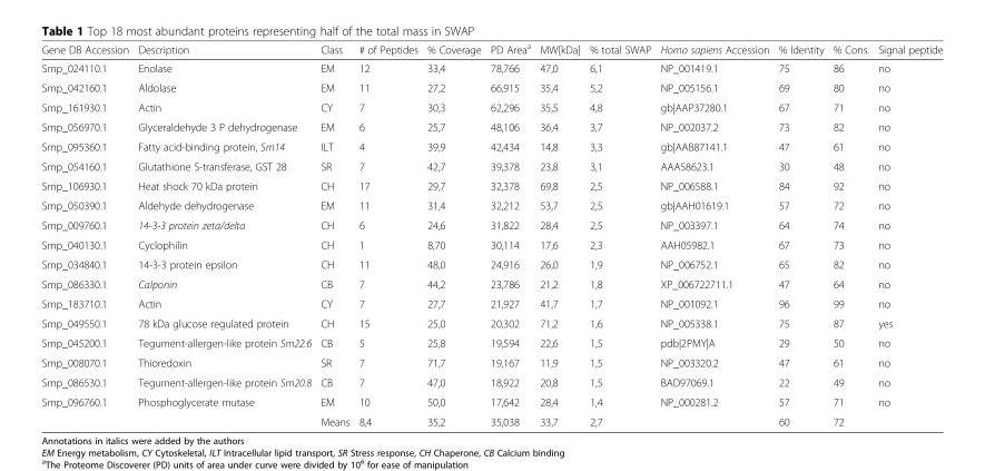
<table><thead><tr><td>Gene DB Accession</td><td>Description</td><td>Class</td><td># of Peptides</td><td>% Coverage</td><td>PD Area<sup>a</sup></td><td>MW[kDa]</td><td>% total SWAP</td><td>Homo sapiens Accession</td><td>% Identity</td><td>% Cons.</td><td>Signal peptide</td></tr></thead><tbody><tr><td>Smp_024110.1</td><td>Enolase</td><td>EM</td><td>12</td><td>33,4</td><td>78,766</td><td>47,0</td><td>6,1</td><td>NP_001419.1</td><td>75</td><td>86</td><td>no</td></tr><tr><td>Smp_042160.1</td><td>Aldolase</td><td>EM</td><td>11</td><td>27,2</td><td>66,915</td><td>35,4</td><td>5,2</td><td>NP_005156.1</td><td>69</td><td>80</td><td>no</td></tr><tr><td>Smp_161930.1</td><td>Actin</td><td>CY</td><td>7</td><td>30,3</td><td>62,296</td><td>35,5</td><td>4,8</td><td>gb|AAP37280.1</td><td>67</td><td>71</td><td>no</td></tr><tr><td>Smp_056970.1</td><td>Glyceraldehyde 3 P dehydrogenase</td><td>EM</td><td>6</td><td>25,7</td><td>48,106</td><td>36,4</td><td>3,7</td><td>NP_002037.2</td><td>73</td><td>82</td><td>no</td></tr><tr><td>Smp_095360.1</td><td>Fatty acid-binding protein, Sm14</td><td>ILT</td><td>4</td><td>39,9</td><td>42,434</td><td>14,8</td><td>3,3</td><td>gb|AAB87141.1</td><td>47</td><td>61</td><td>no</td></tr><tr><td>Smp_054160.1</td><td>Glutathione S-transferase, GST 28</td><td>SR</td><td>7</td><td>42,7</td><td>39,378</td><td>23,8</td><td>3,1</td><td>AAA58623.1</td><td>30</td><td>48</td><td>no</td></tr><tr><td>Smp_106930.1</td><td>Heat shock 70 kDa protein</td><td>CH</td><td>17</td><td>29,7</td><td>32,378</td><td>69,8</td><td>2,5</td><td>NP_006588.1</td><td>84</td><td>92</td><td>no</td></tr><tr><td>Smp_050390.1</td><td>Aldehyde dehydrogenase</td><td>EM</td><td>11</td><td>31,4</td><td>32,212</td><td>53,7</td><td>2,5</td><td>gb|AAH01619.1</td><td>57</td><td>72</td><td>no</td></tr><tr><td>Smp_009760.1</td><td>14-3-3 protein zeta/delta</td><td>CH</td><td>6</td><td>24,6</td><td>31,822</td><td>28,4</td><td>2,5</td><td>NP_003397.1</td><td>64</td><td>74</td><td>no</td></tr><tr><td>Smp_040130.1</td><td>Cyclophilin</td><td>CH</td><td>1</td><td>8,70</td><td>30,114</td><td>17,6</td><td>2,3</td><td>AAH05982.1</td><td>67</td><td>73</td><td>no</td></tr><tr><td>Smp_034840.1</td><td>14-3-3 protein epsilon</td><td>CH</td><td>11</td><td>48,0</td><td>24,916</td><td>26,0</td><td>1,9</td><td>NP_006752.1</td><td>65</td><td>82</td><td>no</td></tr><tr><td>Smp_086330.1</td><td>Calponin</td><td>CB</td><td>7</td><td>44,2</td><td>23,786</td><td>21,2</td><td>1,8</td><td>XP_006722711.1</td><td>47</td><td>64</td><td>no</td></tr><tr><td>Smp_183710.1</td><td>Actin</td><td>CY</td><td>7</td><td>27,7</td><td>21,927</td><td>41,7</td><td>1,7</td><td>NP_001092.1</td><td>96</td><td>99</td><td>no</td></tr><tr><td>Smp_049550.1</td><td>78 kDa glucose regulated protein</td><td>CH</td><td>15</td><td>25,0</td><td>20,302</td><td>71,2</td><td>1,6</td><td>NP_005338.1</td><td>75</td><td>87</td><td>yes</td></tr><tr><td>Smp_045200.1</td><td>Tegument-allergen-like protein Sm22.6</td><td>CB</td><td>5</td><td>25,8</td><td>19,594</td><td>22,6</td><td>1,5</td><td>pdb|2PMY|A</td><td>29</td><td>50</td><td>no</td></tr><tr><td>Smp_008070.1</td><td>Thioredoxin</td><td>SR</td><td>7</td><td>71,7</td><td>19,167</td><td>11,9</td><td>1,5</td><td>NP_003320.2</td><td>47</td><td>61</td><td>no</td></tr><tr><td>Smp_086530.1</td><td>Tegument-allergen-like protein Sm20.8</td><td>CB</td><td>7</td><td>47,0</td><td>18,922</td><td>20,8</td><td>1,5</td><td>BAD97069.1</td><td>22</td><td>49</td><td>no</td></tr><tr><td rowspan="2">Smp_096760.1</td><td>Phosphoglycerate mutase</td><td>EM</td><td>10</td><td>50,0</td><td>17,642</td><td>28,4</td><td>1,4</td><td>NP_000281.2</td><td>57</td><td>71</td><td>no</td></tr><tr><td></td><td>Means</td><td>8,4</td><td>35,2</td><td>35,038</td><td>33,7</td><td>2,7</td><td></td><td>60</td><td>72</td><td></td></tr></tbody></table>